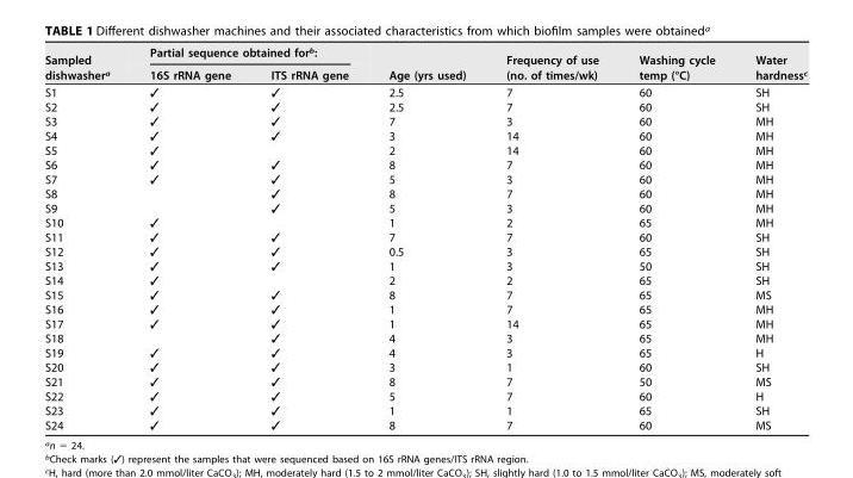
<table><thead><tr><td rowspan="2">Sampled dishwasher<sup>a</sup></td><td colspan="2">Partial sequence obtained for<sup>b</sup>:</td><td rowspan="2">Age (yrs used)</td><td rowspan="2">Frequency of use (no. of times/wk)</td><td rowspan="2">Washing cycle temp (°C)</td><td rowspan="2">Water hardness<sup>c</sup></td></tr><tr><td>16S rRNA gene</td><td>ITS rRNA gene</td></tr></thead><tbody><tr><td>S1</td><td>✓</td><td>✓</td><td>2.5</td><td>7</td><td>60</td><td>SH</td></tr><tr><td>S2</td><td>✓</td><td>✓</td><td>2.5</td><td>7</td><td>60</td><td>SH</td></tr><tr><td>S3</td><td>✓</td><td>✓</td><td>7</td><td>3</td><td>60</td><td>MH</td></tr><tr><td>S4</td><td>✓</td><td>✓</td><td>3</td><td>14</td><td>60</td><td>MH</td></tr><tr><td>S5</td><td>✓</td><td></td><td>2</td><td>14</td><td>60</td><td>MH</td></tr><tr><td>S6</td><td>✓</td><td>✓</td><td>8</td><td>7</td><td>60</td><td>MH</td></tr><tr><td>S7</td><td>✓</td><td>✓</td><td>5</td><td>3</td><td>60</td><td>MH</td></tr><tr><td>S8</td><td></td><td>✓</td><td>8</td><td>7</td><td>60</td><td>MH</td></tr><tr><td>S9</td><td></td><td>✓</td><td>5</td><td>3</td><td>60</td><td>MH</td></tr><tr><td>S10</td><td>✓</td><td></td><td>1</td><td>2</td><td>65</td><td>MH</td></tr><tr><td>S11</td><td>✓</td><td>✓</td><td>7</td><td>7</td><td>60</td><td>SH</td></tr><tr><td>S12</td><td>✓</td><td>✓</td><td>0.5</td><td>3</td><td>65</td><td>SH</td></tr><tr><td>S13</td><td>✓</td><td>✓</td><td>1</td><td>3</td><td>50</td><td>SH</td></tr><tr><td>S14</td><td>✓</td><td></td><td>2</td><td>2</td><td>65</td><td>SH</td></tr><tr><td>S15</td><td>✓</td><td>✓</td><td>8</td><td>7</td><td>65</td><td>MS</td></tr><tr><td>S16</td><td>✓</td><td>✓</td><td>1</td><td>7</td><td>65</td><td>MH</td></tr><tr><td>S17</td><td>✓</td><td>✓</td><td>1</td><td>14</td><td>65</td><td>MH</td></tr><tr><td>S18</td><td></td><td>✓</td><td>4</td><td>3</td><td>65</td><td>MH</td></tr><tr><td>S19</td><td>✓</td><td>✓</td><td>4</td><td>3</td><td>65</td><td>H</td></tr><tr><td>S20</td><td>✓</td><td>✓</td><td>3</td><td>1</td><td>60</td><td>SH</td></tr><tr><td>S21</td><td>✓</td><td>✓</td><td>8</td><td>7</td><td>50</td><td>MS</td></tr><tr><td>S22</td><td>✓</td><td>✓</td><td>5</td><td>7</td><td>60</td><td>H</td></tr><tr><td>S23</td><td>✓</td><td>✓</td><td>1</td><td>1</td><td>65</td><td>SH</td></tr><tr><td>S24</td><td>✓</td><td>✓</td><td>8</td><td>7</td><td>60</td><td>MS</td></tr></tbody></table>